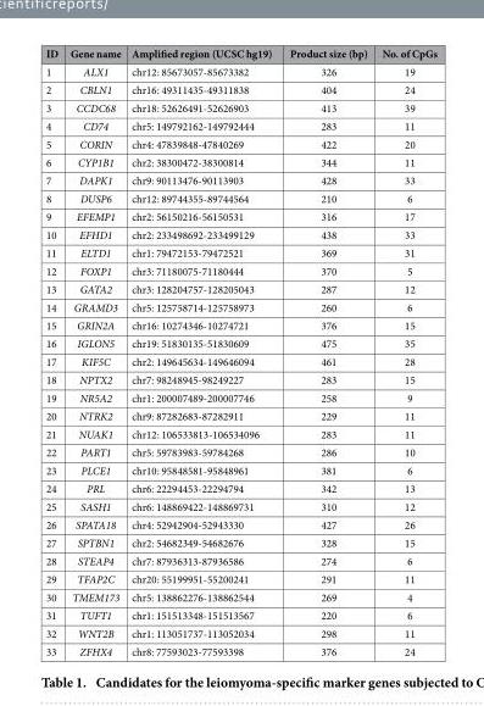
<table><thead><tr><td>ID</td><td>Gene name</td><td>Amplified region (UCSC hg19)</td><td>Product size (bp)</td><td>No. of CpGs</td></tr></thead><tbody><tr><td>1</td><td>ALX1</td><td>chr12: 85673057-85673382</td><td>326</td><td>19</td></tr><tr><td>2</td><td>CBLN1</td><td>chr16: 49311435-49311838</td><td>404</td><td>24</td></tr><tr><td>3</td><td>CCDC68</td><td>chr18: 52626491-52626903</td><td>413</td><td>39</td></tr><tr><td>4</td><td>CD74</td><td>chr5: 149792162-149792444</td><td>283</td><td>11</td></tr><tr><td>5</td><td>CORIN</td><td>chr4: 47839848-47840269</td><td>422</td><td>20</td></tr><tr><td>6</td><td>CYP1B1</td><td>chr2: 38300472-38300814</td><td>344</td><td>11</td></tr><tr><td>7</td><td>DAPK1</td><td>chr9: 90113476-90113903</td><td>428</td><td>33</td></tr><tr><td>8</td><td>DUSP6</td><td>chr12: 89744355-89744564</td><td>210</td><td>6</td></tr><tr><td>9</td><td>EFEMP1</td><td>chr2: 56150216-56150531</td><td>316</td><td>17</td></tr><tr><td>10</td><td>EFHD1</td><td>chr2: 233498692-233499129</td><td>438</td><td>33</td></tr><tr><td>11</td><td>ELTD1</td><td>chr1: 79472153-79472521</td><td>369</td><td>31</td></tr><tr><td>12</td><td>FOXP1</td><td>chr3: 71180075-71180444</td><td>370</td><td>5</td></tr><tr><td>13</td><td>GATA2</td><td>chr3: 128204757-128205043</td><td>287</td><td>12</td></tr><tr><td>14</td><td>GRAMD3</td><td>chr5: 125758714-125758973</td><td>260</td><td>6</td></tr><tr><td>15</td><td>GRIN2A</td><td>chr16: 10274346-10274721</td><td>376</td><td>15</td></tr><tr><td>16</td><td>IGLON5</td><td>chr19: 51830135-51830609</td><td>475</td><td>35</td></tr><tr><td>17</td><td>KIF5C</td><td>chr2: 149645634-149646094</td><td>461</td><td>28</td></tr><tr><td>18</td><td>NPTX2</td><td>chr7: 98248945-98249227</td><td>283</td><td>15</td></tr><tr><td>19</td><td>NR5A2</td><td>chr1: 200007489-200007746</td><td>258</td><td>9</td></tr><tr><td>20</td><td>NTRK2</td><td>chr9: 87282683-87282911</td><td>229</td><td>11</td></tr><tr><td>21</td><td>NUAK1</td><td>chr12: 106533813-106534096</td><td>283</td><td>11</td></tr><tr><td>22</td><td>PART1</td><td>chr5: 59783983-59784268</td><td>286</td><td>10</td></tr><tr><td>23</td><td>PLCE1</td><td>chr10: 95848581-95848961</td><td>381</td><td>6</td></tr><tr><td>24</td><td>PRL</td><td>chr6: 22294453-22294794</td><td>342</td><td>13</td></tr><tr><td>25</td><td>SASH1</td><td>chr6: 148869422-148869731</td><td>310</td><td>12</td></tr><tr><td>26</td><td>SPATA18</td><td>chr4: 52942904-52943330</td><td>427</td><td>26</td></tr><tr><td>27</td><td>SPTBN1</td><td>chr2: 54682349-54682676</td><td>328</td><td>15</td></tr><tr><td>28</td><td>STEAP4</td><td>chr7: 87936313-87936586</td><td>274</td><td>6</td></tr><tr><td>29</td><td>TFAP2C</td><td>chr20: 55199951-55200241</td><td>291</td><td>11</td></tr><tr><td>30</td><td>TMEM173</td><td>chr5: 138862276-138862544</td><td>269</td><td>4</td></tr><tr><td>31</td><td>TUFT1</td><td>chr1: 151513348-151513567</td><td>220</td><td>6</td></tr><tr><td>32</td><td>WNT2B</td><td>chr1: 113051737-113052034</td><td>298</td><td>11</td></tr><tr><td>33</td><td>ZFHX4</td><td>chr8: 77593023-77593398</td><td>376</td><td>24</td></tr></tbody></table>